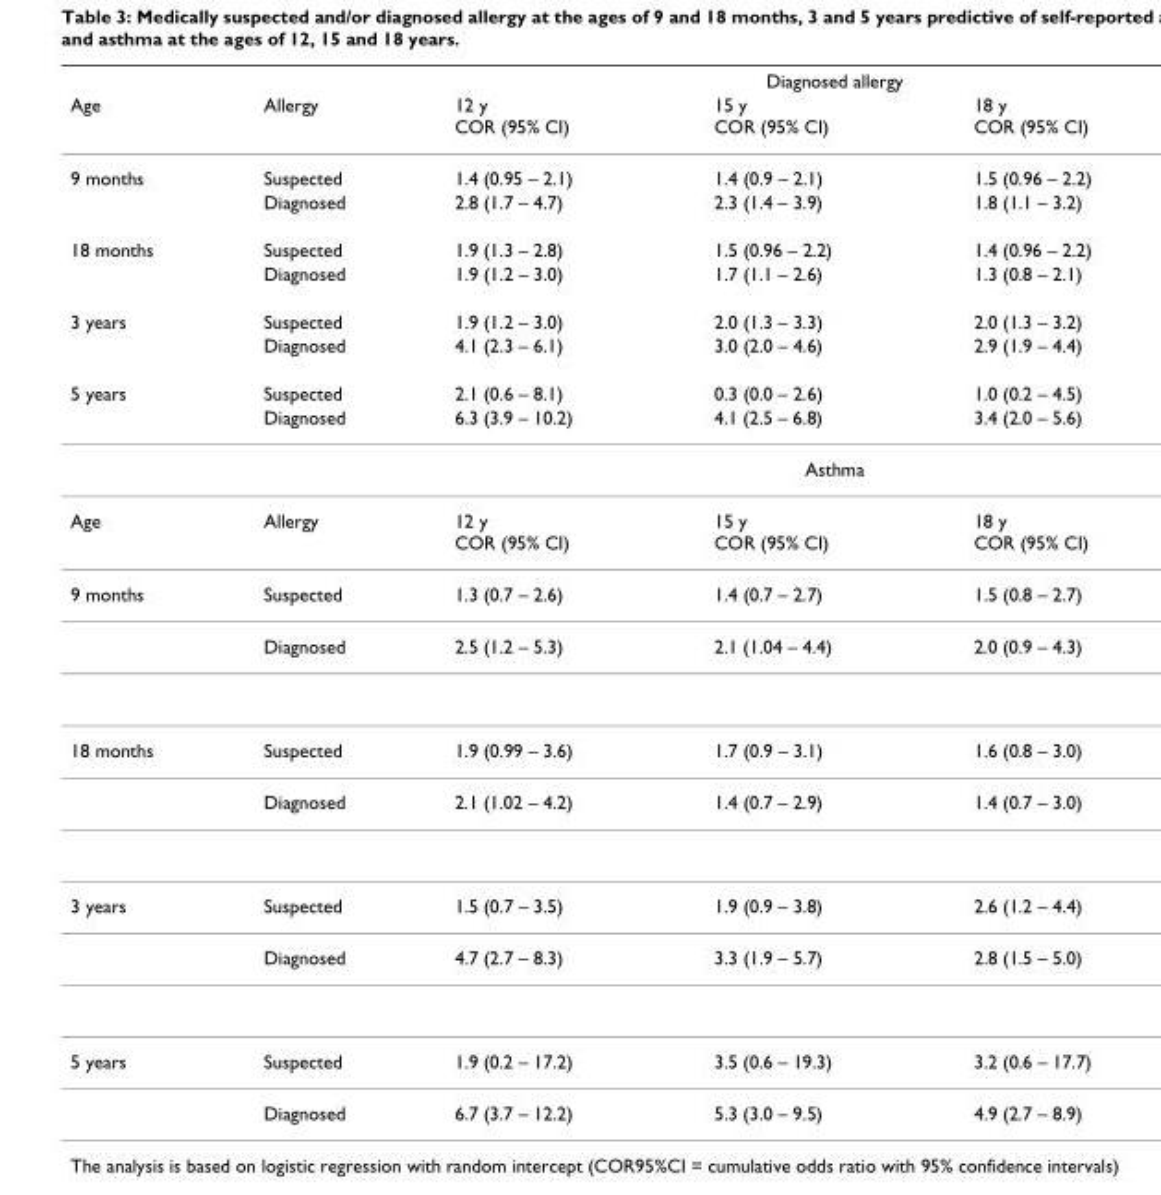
<table><thead><tr><td rowspan="2">Age</td><td rowspan="2">Allergy</td><td colspan="3">Diagnosed allergy</td></tr><tr><td>12 y COR (95% CI)</td><td>15 y COR (95% CI)</td><td>18 y COR (95% CI)</td></tr></thead><tbody><tr><td rowspan="2">9 months</td><td>Suspected</td><td>1.4 (0.95 – 2.1)</td><td>1.4 (0.9 – 2.1)</td><td>1.5 (0.96 – 2.2)</td></tr><tr><td>Diagnosed</td><td>2.8 (1.7 – 4.7)</td><td>2.3 (1.4 – 3.9)</td><td>1.8 (1.1 – 3.2)</td></tr><tr><td rowspan="2">18 months</td><td>Suspected</td><td>1.9 (1.3 – 2.8)</td><td>1.5 (0.96 – 2.2)</td><td>1.4 (0.96 – 2.2)</td></tr><tr><td>Diagnosed</td><td>1.9 (1.2 – 3.0)</td><td>1.7 (1.1 – 2.6)</td><td>1.3 (0.8 – 2.1)</td></tr><tr><td rowspan="2">3 years</td><td>Suspected</td><td>1.9 (1.2 – 3.0)</td><td>2.0 (1.3 – 3.3)</td><td>2.0 (1.3 – 3.2)</td></tr><tr><td>Diagnosed</td><td>4.1 (2.3 – 6.1)</td><td>3.0 (2.0 – 4.6)</td><td>2.9 (1.9 – 4.4)</td></tr><tr><td rowspan="3">5 years</td><td>Suspected</td><td>2.1 (0.6 – 8.1)</td><td>0.3 (0.0 – 2.6)</td><td>1.0 (0.2 – 4.5)</td></tr><tr><td>Diagnosed</td><td>6.3 (3.9 – 10.2)</td><td>4.1 (2.5 – 6.8)</td><td>3.4 (2.0 – 5.6)</td></tr><tr><td></td><td colspan="3">Asthma</td></tr><tr><td>Age</td><td>Allergy</td><td>12 y COR (95% CI)</td><td>15 y COR (95% CI)</td><td>18 y COR (95% CI)</td></tr><tr><td rowspan="2">9 months</td><td>Suspected</td><td>1.3 (0.7 – 2.6)</td><td>1.4 (0.7 – 2.7)</td><td>1.5 (0.8 – 2.7)</td></tr><tr><td>Diagnosed</td><td>2.5 (1.2 – 5.3)</td><td>2.1 (1.04 – 4.4)</td><td>2.0 (0.9 – 4.3)</td></tr><tr><td rowspan="2">18 months</td><td>Suspected</td><td>1.9 (0.99 – 3.6)</td><td>1.7 (0.9 – 3.1)</td><td>1.6 (0.8 – 3.0)</td></tr><tr><td>Diagnosed</td><td>2.1 (1.02 – 4.2)</td><td>1.4 (0.7 – 2.9)</td><td>1.4 (0.7 – 3.0)</td></tr><tr><td rowspan="2">3 years</td><td>Suspected</td><td>1.5 (0.7 – 3.5)</td><td>1.9 (0.9 – 3.8)</td><td>2.6 (1.2 – 4.4)</td></tr><tr><td>Diagnosed</td><td>4.7 (2.7 – 8.3)</td><td>3.3 (1.9 – 5.7)</td><td>2.8 (1.5 – 5.0)</td></tr><tr><td rowspan="2">5 years</td><td>Suspected</td><td>1.9 (0.2 – 17.2)</td><td>3.5 (0.6 – 19.3)</td><td>3.2 (0.6 – 17.7)</td></tr><tr><td>Diagnosed</td><td>6.7 (3.7 – 12.2)</td><td>5.3 (3.0 – 9.5)</td><td>4.9 (2.7 – 8.9)</td></tr></tbody></table>